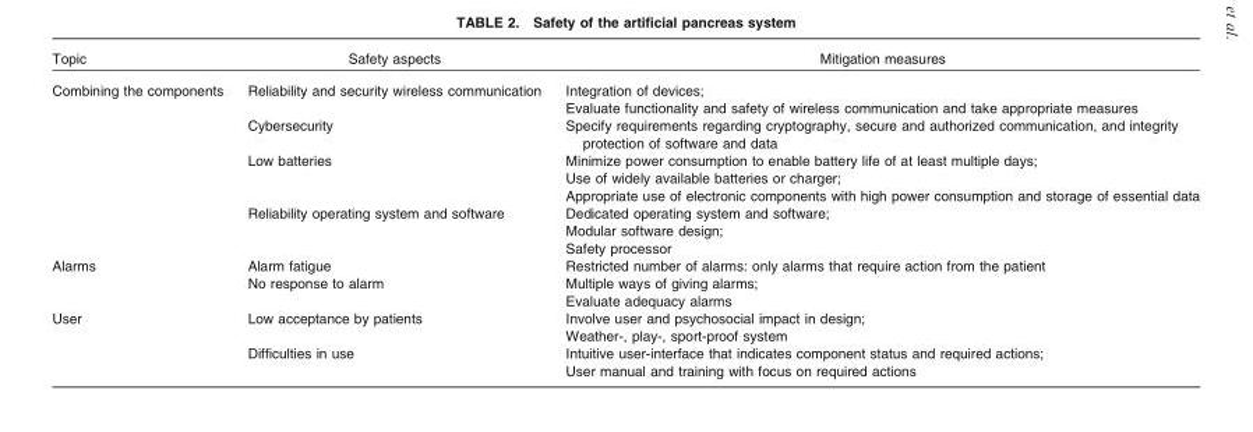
<table><thead><tr><td>Topic</td><td>Safety aspects</td><td>Mitigation measures</td></tr></thead><tbody><tr><td rowspan="4">Combining the components</td><td>Reliability and security wireless communication</td><td>Integration of devices; Evaluate functionality and safety of wireless communication and take appropriate measures</td></tr><tr><td>Cybersecurity</td><td>Specify requirements regarding cryptography, secure and authorized communication, and integrity protection of software and data</td></tr><tr><td>Low batteries</td><td>Minimize power consumption to enable battery life of at least multiple days; Use of widely available batteries or charger; Appropriate use of electronic components with high power consumption and storage of essential data</td></tr><tr><td>Reliability operating system and software</td><td>Dedicated operating system and software; Modular software design; Safety processor</td></tr><tr><td rowspan="2">Alarms</td><td>Alarm fatigue</td><td>Restricted number of alarms: only alarms that require action from the patient</td></tr><tr><td>No response to alarm</td><td>Multiple ways of giving alarms; Evaluate adequacy alarms</td></tr><tr><td rowspan="2">User</td><td>Low acceptance by patients</td><td>Involve user and psychosocial impact in design; Weather-, play-, sport-proof system</td></tr><tr><td>Difficulties in use</td><td>Intuitive user-interface that indicates component status and required actions; User manual and training with focus on required actions</td></tr></tbody></table>